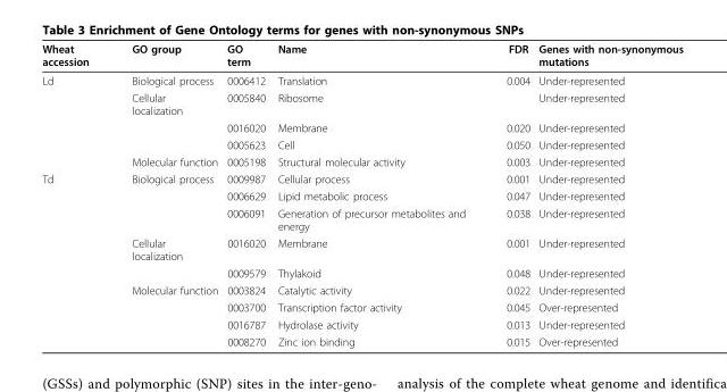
<table><thead><tr><td>Wheat accession</td><td>GO group</td><td>GO term</td><td>Name</td><td>FDR</td><td>Genes with non-synonymous mutations</td></tr></thead><tbody><tr><td rowspan="5">Ld</td><td>Biological process</td><td>0006412</td><td>Translation</td><td>0.004</td><td>Under-represented</td></tr><tr><td>Cellular localization</td><td>0005840</td><td>Ribosome</td><td></td><td>Under-represented</td></tr><tr><td></td><td>0016020</td><td>Membrane</td><td>0.020</td><td>Under-represented</td></tr><tr><td></td><td>0005623</td><td>Cell</td><td>0.050</td><td>Under-represented</td></tr><tr><td>Molecular function</td><td>0005198</td><td>Structural molecular activity</td><td>0.003</td><td>Under-represented</td></tr><tr><td rowspan="9">Td</td><td>Biological process</td><td>0009987</td><td>Cellular process</td><td>0.001</td><td>Under-represented</td></tr><tr><td></td><td>0006629</td><td>Lipid metabolic process</td><td>0.047</td><td>Under-represented</td></tr><tr><td></td><td>0006091</td><td>Generation of precursor metabolites and energy</td><td>0.038</td><td>Under-represented</td></tr><tr><td>Cellular localization</td><td>0016020</td><td>Membrane</td><td>0.001</td><td>Under-represented</td></tr><tr><td></td><td>0009579</td><td>Thylakoid</td><td>0.048</td><td>Under-represented</td></tr><tr><td>Molecular function</td><td>0003824</td><td>Catalytic activity</td><td>0.022</td><td>Under-represented</td></tr><tr><td></td><td>0003700</td><td>Transcription factor activity</td><td>0.045</td><td>Over-represented</td></tr><tr><td></td><td>0016787</td><td>Hydrolase activity</td><td>0.013</td><td>Under-represented</td></tr><tr><td></td><td>0008270</td><td>Zinc ion binding</td><td>0.015</td><td>Over-represented</td></tr></tbody></table>